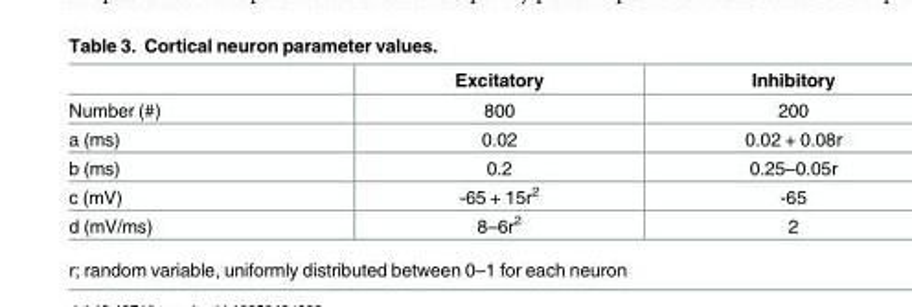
<table><thead><tr><td></td><td>Excitatory</td><td>Inhibitory</td></tr></thead><tbody><tr><td>Number (#)</td><td>800</td><td>200</td></tr><tr><td>a (ms)</td><td>0.02</td><td>0.02 + 0.08r</td></tr><tr><td>b (ms)</td><td>0.2</td><td>0.25–0.05r</td></tr><tr><td>c (mV)</td><td>-65 + 15r<sup>2</sup></td><td>-65</td></tr><tr><td>d (mV/ms)</td><td>8–6r<sup>2</sup></td><td>2</td></tr></tbody></table>